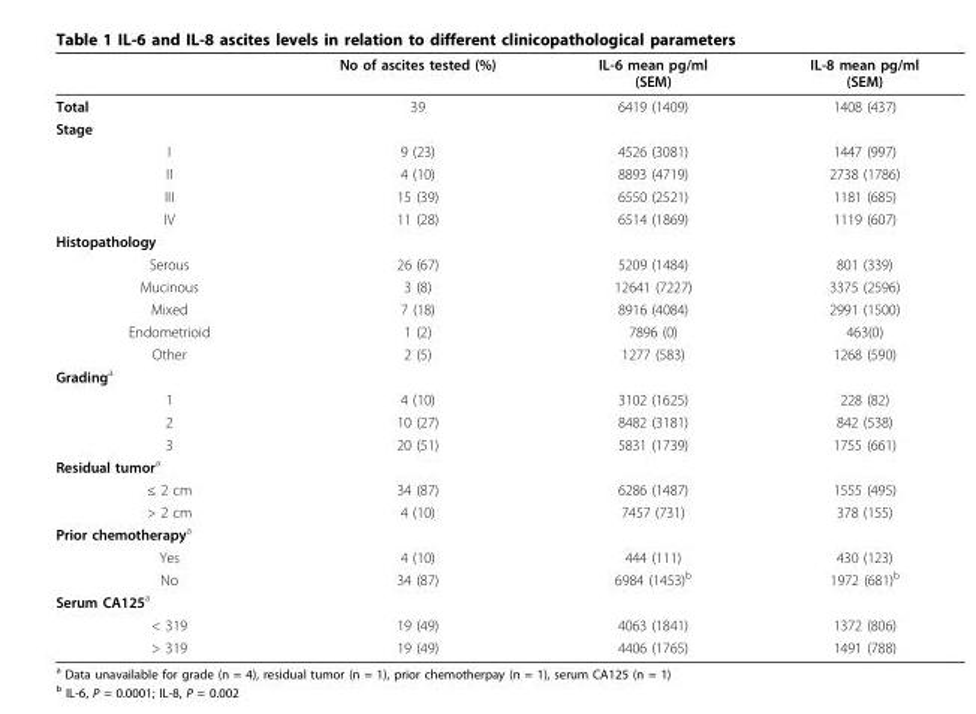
<table><thead><tr><td></td><td>No of ascites tested (%)</td><td>IL-6 mean pg/ml (SEM)</td><td>IL-8 mean pg/ml (SEM)</td></tr></thead><tbody><tr><td>Total</td><td>39</td><td>6419 (1409)</td><td>1408 (437)</td></tr><tr><td colspan="4">Stage</td></tr><tr><td>I</td><td>9 (23)</td><td>4526 (3081)</td><td>1447 (997)</td></tr><tr><td>II</td><td>4 (10)</td><td>8893 (4719)</td><td>2738 (1786)</td></tr><tr><td>III</td><td>15 (39)</td><td>6550 (2521)</td><td>1181 (685)</td></tr><tr><td>IV</td><td>11 (28)</td><td>6514 (1869)</td><td>1119 (607)</td></tr><tr><td colspan="4">Histopathology</td></tr><tr><td>Serous</td><td>26 (67)</td><td>5209 (1484)</td><td>801 (339)</td></tr><tr><td>Mucinous</td><td>3 (8)</td><td>12641 (7227)</td><td>3375 (2596)</td></tr><tr><td>Mixed</td><td>7 (18)</td><td>8916 (4084)</td><td>2991 (1500)</td></tr><tr><td>Endometrioid</td><td>1 (2)</td><td>7896 (0)</td><td>463(0)</td></tr><tr><td>Other</td><td>2 (5)</td><td>1277 (583)</td><td>1268 (590)</td></tr><tr><td colspan="4">Grading<sup>a</sup></td></tr><tr><td>1</td><td>4 (10)</td><td>3102 (1625)</td><td>228 (82)</td></tr><tr><td>2</td><td>10 (27)</td><td>8482 (3181)</td><td>842 (538)</td></tr><tr><td>3</td><td>20 (51)</td><td>5831 (1739)</td><td>1755 (661)</td></tr><tr><td colspan="4">Residual tumor<sup>a</sup></td></tr><tr><td>≤ 2 cm</td><td>34 (87)</td><td>6286 (1487)</td><td>1555 (495)</td></tr><tr><td>&gt; 2 cm</td><td>4 (10)</td><td>7457 (731)</td><td>378 (155)</td></tr><tr><td colspan="4">Prior chemotherapy<sup>a</sup></td></tr><tr><td>Yes</td><td>4 (10)</td><td>444 (111)</td><td>430 (123)</td></tr><tr><td>No</td><td>34 (87)</td><td>6984 (1453)<sup>b</sup></td><td>1972 (681)<sup>b</sup></td></tr><tr><td colspan="4">Serum CA125<sup>a</sup></td></tr><tr><td>&lt; 319</td><td>19 (49)</td><td>4063 (1841)</td><td>1372 (806)</td></tr><tr><td>&gt; 319</td><td>19 (49)</td><td>4406 (1765)</td><td>1491 (788)</td></tr></tbody></table>